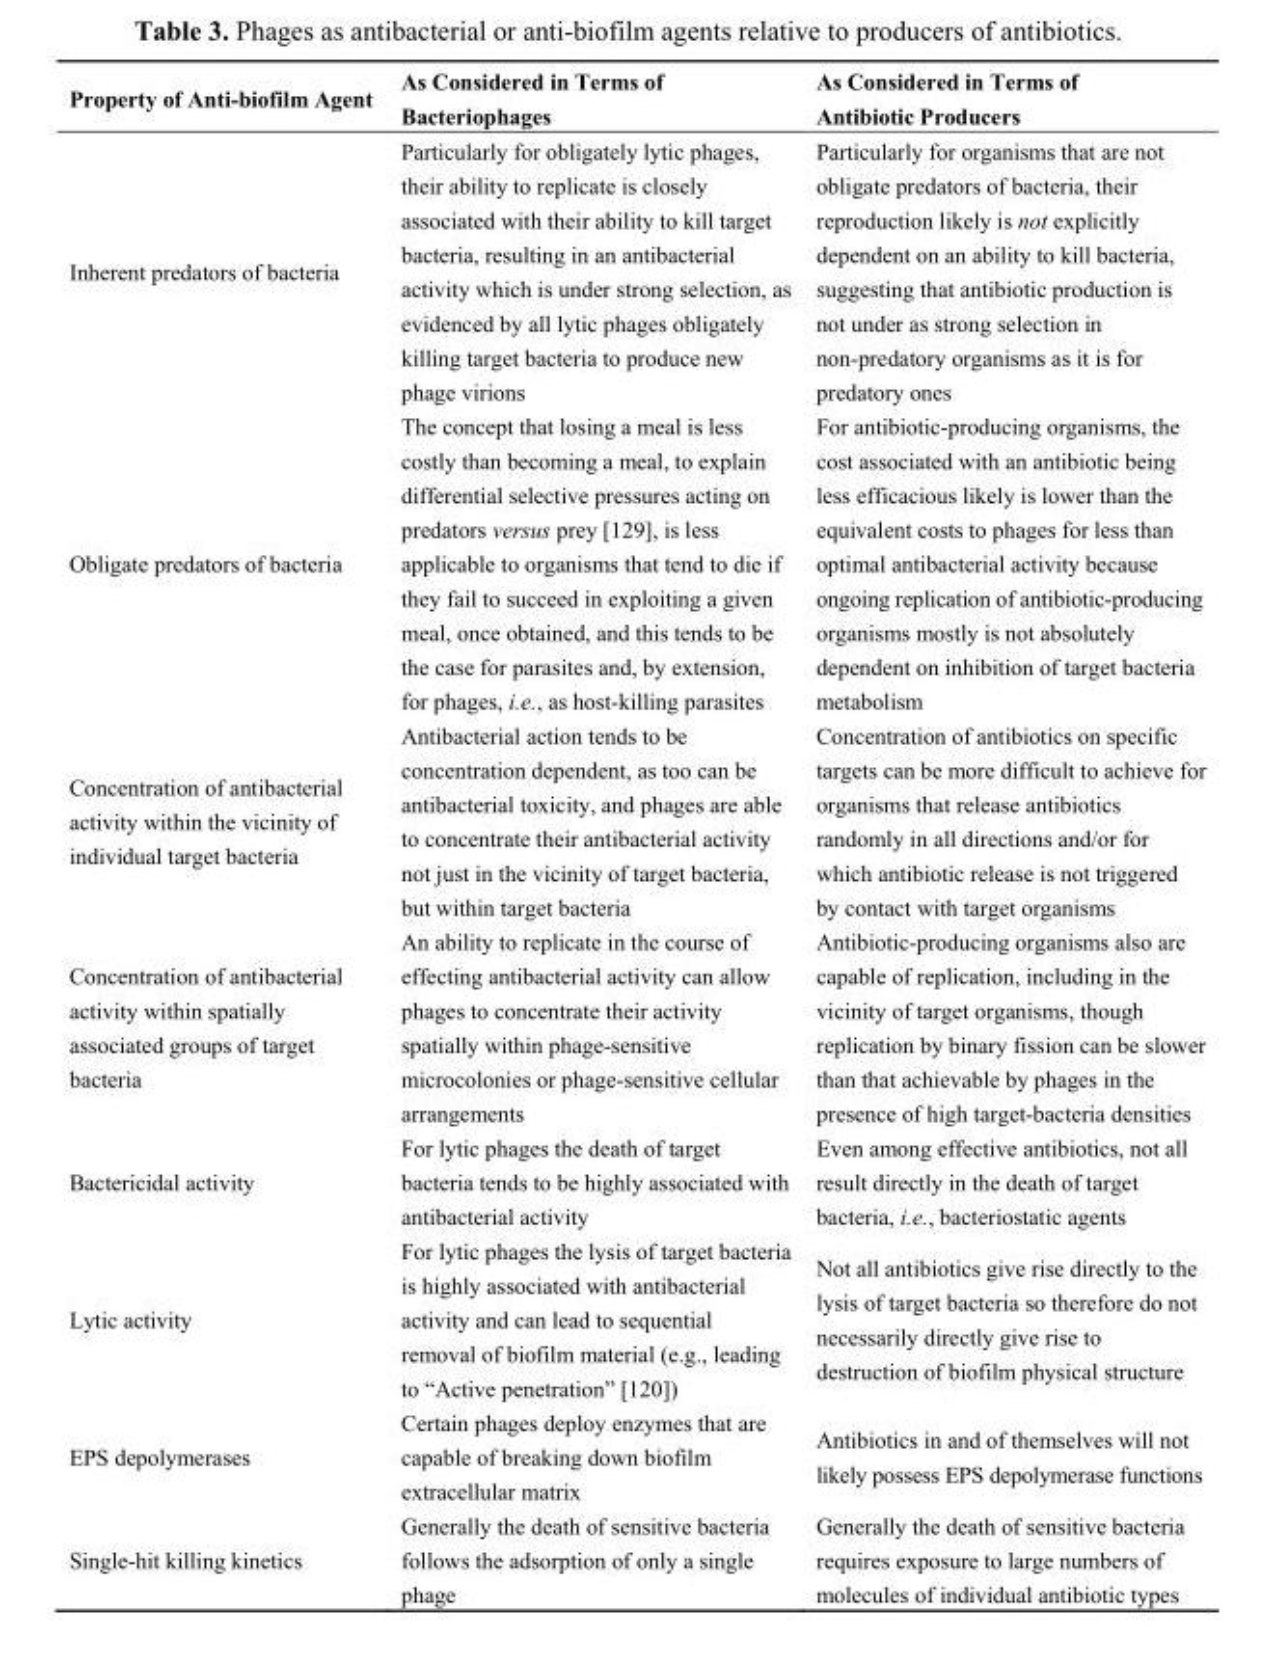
<table><thead><tr><td>Property of Anti-biofilm Agent</td><td>As Considered in Terms of Bacteriophages</td><td>As Considered in Terms of Antibiotic Producers</td></tr></thead><tbody><tr><td>Inherent predators of bacteria</td><td>Particularly for obligately lytic phages, their ability to replicate is closely associated with their ability to kill target bacteria, resulting in an antibacterial activity which is under strong selection, as evidenced by all lytic phages obligately killing target bacteria to produce new phage virions</td><td>Particularly for organisms that are not obligate predators of bacteria, their reproduction likely is not explicitly dependent on an ability to kill bacteria, suggesting that antibiotic production is not under as strong selection in non-predatory organisms as it is for predatory ones</td></tr><tr><td>Obligate predators of bacteria</td><td>The concept that losing a meal is less costly than becoming a meal, to explain differential selective pressures acting on predators versus prey [129], is less applicable to organisms that tend to die if they fail to succeed in exploiting a given meal, once obtained, and this tends to be the case for parasites and, by extension, for phages, i.e., as host-killing parasites</td><td>For antibiotic-producing organisms, the cost associated with an antibiotic being less efficacious likely is lower than the equivalent costs to phages for less than optimal antibacterial activity because ongoing replication of antibiotic-producing organisms mostly is not absolutely dependent on inhibition of target bacteria metabolism</td></tr><tr><td>Concentration of antibacterial activity within the vicinity of individual target bacteria</td><td>Antibacterial action tends to be concentration dependent, as too can be antibacterial toxicity, and phages are able to concentrate their antibacterial activity not just in the vicinity of target bacteria, but within target bacteria</td><td>Concentration of antibiotics on specific targets can be more difficult to achieve for organisms that release antibiotics randomly in all directions and/or for which antibiotic release is not triggered by contact with target organisms</td></tr><tr><td>Concentration of antibacterial activity within spatially associated groups of target bacteria</td><td>An ability to replicate in the course of effecting antibacterial activity can allow phages to concentrate their activity spatially within phage-sensitive microcolonies or phage-sensitive cellular arrangements</td><td>Antibiotic-producing organisms also are capable of replication, including in the vicinity of target organisms, though replication by binary fission can be slower than that achievable by phages in the presence of high target-bacteria densities</td></tr><tr><td>Bactericidal activity</td><td>For lytic phages the death of target bacteria tends to be highly associated with antibacterial activity</td><td>Even among effective antibiotics, not all result directly in the death of target bacteria, i.e., bacteriostatic agents</td></tr><tr><td>Lytic activity</td><td>For lytic phages the lysis of target bacteria is highly associated with antibacterial activity and can lead to sequential removal of biofilm material (e.g., leading to “Active penetration” [120])</td><td>Not all antibiotics give rise directly to the lysis of target bacteria so therefore do not necessarily directly give rise to destruction of biofilm physical structure</td></tr><tr><td>EPS depolymerases</td><td>Certain phages deploy enzymes that are capable of breaking down biofilm extracellular matrix</td><td>Antibiotics in and of themselves will not likely possess EPS depolymerase functions</td></tr><tr><td>Single-hit killing kinetics</td><td>Generally the death of sensitive bacteria follows the adsorption of only a single phage</td><td>Generally the death of sensitive bacteria requires exposure to large numbers of molecules of individual antibiotic types</td></tr></tbody></table>